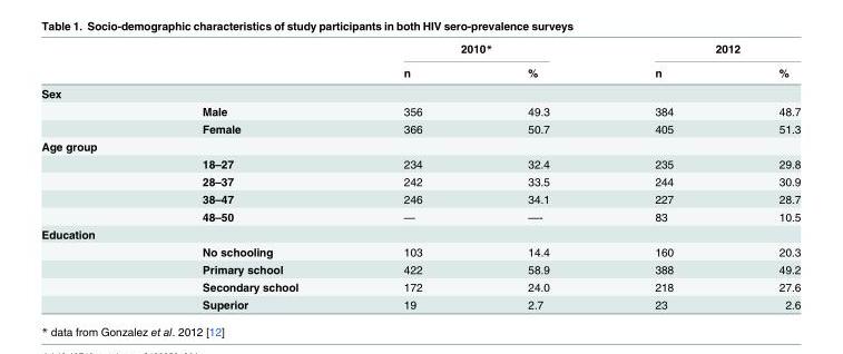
<table><thead><tr><td rowspan="2"></td><td rowspan="2"></td><td colspan="2">2010*</td><td colspan="2">2012</td></tr><tr><td>n</td><td>%</td><td>n</td><td>%</td></tr></thead><tbody><tr><td colspan="6">Sex</td></tr><tr><td></td><td>Male</td><td>356</td><td>49.3</td><td>384</td><td>48.7</td></tr><tr><td></td><td>Female</td><td>366</td><td>50.7</td><td>405</td><td>51.3</td></tr><tr><td colspan="6">Age group</td></tr><tr><td></td><td>18–27</td><td>234</td><td>32.4</td><td>235</td><td>29.8</td></tr><tr><td></td><td>28–37</td><td>242</td><td>33.5</td><td>244</td><td>30.9</td></tr><tr><td></td><td>38–47</td><td>246</td><td>34.1</td><td>227</td><td>28.7</td></tr><tr><td></td><td>48–50</td><td>—</td><td>—-</td><td>83</td><td>10.5</td></tr><tr><td colspan="6">Education</td></tr><tr><td></td><td>No schooling</td><td>103</td><td>14.4</td><td>160</td><td>20.3</td></tr><tr><td></td><td>Primary school</td><td>422</td><td>58.9</td><td>388</td><td>49.2</td></tr><tr><td></td><td>Secondary school</td><td>172</td><td>24.0</td><td>218</td><td>27.6</td></tr><tr><td></td><td>Superior</td><td>19</td><td>2.7</td><td>23</td><td>2.6</td></tr></tbody></table>